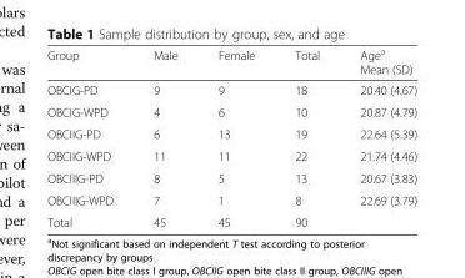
<table><thead><tr><td>Group</td><td>Male</td><td>Female</td><td>Total</td><td>Age<sup>a</sup> Mean (SD)</td></tr></thead><tbody><tr><td>OBCIG-PD</td><td>9</td><td>9</td><td>18</td><td>20.40 (4.67)</td></tr><tr><td>OBCIG-WPD</td><td>4</td><td>6</td><td>10</td><td>20.87 (4.79)</td></tr><tr><td>OBCIIG-PD</td><td>6</td><td>13</td><td>19</td><td>22.64 (5.39)</td></tr><tr><td>OBCIIG-WPD</td><td>11</td><td>11</td><td>22</td><td>21.74 (4.46)</td></tr><tr><td>OBCIIIG-PD</td><td>8</td><td>5</td><td>13</td><td>20.67 (3.83)</td></tr><tr><td>OBCIIIG-WPD</td><td>7</td><td>1</td><td>8</td><td>22.69 (3.79)</td></tr><tr><td>Total</td><td>45</td><td>45</td><td>90</td><td></td></tr></tbody></table>